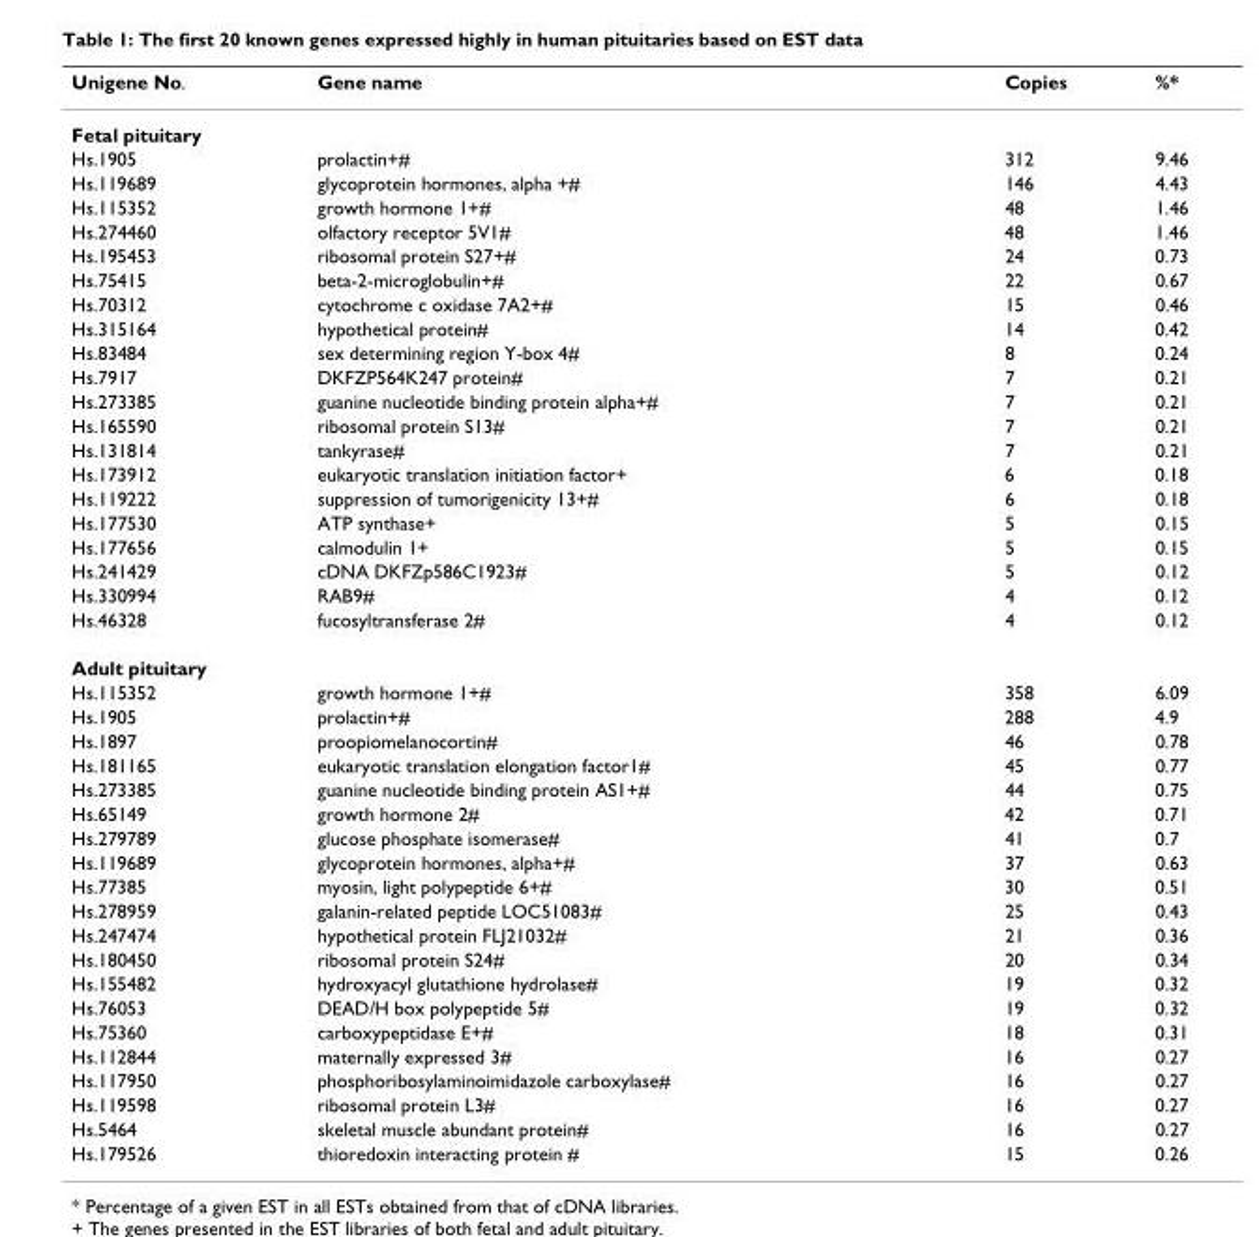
<table><thead><tr><td>Unigene No.</td><td>Gene name</td><td>Copies</td><td>%*</td></tr></thead><tbody><tr><td colspan="4">Fetal pituitary</td></tr><tr><td>Hs.1905</td><td>prolactin+#</td><td>312</td><td>9.46</td></tr><tr><td>Hs.119689</td><td>glycoprotein hormones, alpha +#</td><td>146</td><td>4.43</td></tr><tr><td>Hs.115352</td><td>growth hormone 1+#</td><td>48</td><td>1.46</td></tr><tr><td>Hs.274460</td><td>olfactory receptor 5V1#</td><td>48</td><td>1.46</td></tr><tr><td>Hs.195453</td><td>ribosomal protein S27+#</td><td>24</td><td>0.73</td></tr><tr><td>Hs.75415</td><td>beta-2-microglobulin+#</td><td>22</td><td>0.67</td></tr><tr><td>Hs.70312</td><td>cytochrome c oxidase 7A2+#</td><td>15</td><td>0.46</td></tr><tr><td>Hs.315164</td><td>hypothetical protein#</td><td>14</td><td>0.42</td></tr><tr><td>Hs.83484</td><td>sex determining region Y-box 4#</td><td>8</td><td>0.24</td></tr><tr><td>Hs.7917</td><td>DKFZP564K247 protein#</td><td>7</td><td>0.21</td></tr><tr><td>Hs.273385</td><td>guanine nucleotide binding protein alpha+#</td><td>7</td><td>0.21</td></tr><tr><td>Hs.165590</td><td>ribosomal protein S13#</td><td>7</td><td>0.21</td></tr><tr><td>Hs.131814</td><td>tankyrase#</td><td>7</td><td>0.21</td></tr><tr><td>Hs.173912</td><td>eukaryotic translation initiation factor+</td><td>6</td><td>0.18</td></tr><tr><td>Hs.119222</td><td>suppression of tumorigenicity 13+#</td><td>6</td><td>0.18</td></tr><tr><td>Hs.177530</td><td>ATP synthase+</td><td>5</td><td>0.15</td></tr><tr><td>Hs.177656</td><td>calmodulin 1+</td><td>5</td><td>0.15</td></tr><tr><td>Hs.241429</td><td>cDNA DKFZp586C1923#</td><td>5</td><td>0.12</td></tr><tr><td>Hs.330994</td><td>RAB9#</td><td>4</td><td>0.12</td></tr><tr><td>Hs.46328</td><td>fucosyltransferase 2#</td><td>4</td><td>0.12</td></tr><tr><td colspan="4">Adult pituitary</td></tr><tr><td>Hs.115352</td><td>growth hormone 1+#</td><td>358</td><td>6.09</td></tr><tr><td>Hs.1905</td><td>prolactin+#</td><td>288</td><td>4.9</td></tr><tr><td>Hs.1897</td><td>proopiomelanocortin#</td><td>46</td><td>0.78</td></tr><tr><td>Hs.181165</td><td>eukaryotic translation elongation factor1#</td><td>45</td><td>0.77</td></tr><tr><td>Hs.273385</td><td>guanine nucleotide binding protein AS1+#</td><td>44</td><td>0.75</td></tr><tr><td>Hs.65149</td><td>growth hormone 2#</td><td>42</td><td>0.71</td></tr><tr><td>Hs.279789</td><td>glucose phosphate isomerase#</td><td>41</td><td>0.7</td></tr><tr><td>Hs.119689</td><td>glycoprotein hormones, alpha+#</td><td>37</td><td>0.63</td></tr><tr><td>Hs.77385</td><td>myosin, light polypeptide 6+#</td><td>30</td><td>0.51</td></tr><tr><td>Hs.278959</td><td>galanin-related peptide LOC51083#</td><td>25</td><td>0.43</td></tr><tr><td>Hs.247474</td><td>hypothetical protein FLJ21032#</td><td>21</td><td>0.36</td></tr><tr><td>Hs.180450</td><td>ribosomal protein S24#</td><td>20</td><td>0.34</td></tr><tr><td>Hs.155482</td><td>hydroxyacyl glutathione hydrolase#</td><td>19</td><td>0.32</td></tr><tr><td>Hs.76053</td><td>DEAD/H box polypeptide 5#</td><td>19</td><td>0.32</td></tr><tr><td>Hs.75360</td><td>carboxypeptidase E+#</td><td>18</td><td>0.31</td></tr><tr><td>Hs.112844</td><td>maternally expressed 3#</td><td>16</td><td>0.27</td></tr><tr><td>Hs.117950</td><td>phosphoribosylaminoimidazole carboxylase#</td><td>16</td><td>0.27</td></tr><tr><td>Hs.119598</td><td>ribosomal protein L3#</td><td>16</td><td>0.27</td></tr><tr><td>Hs.5464</td><td>skeletal muscle abundant protein#</td><td>16</td><td>0.27</td></tr><tr><td>Hs.179526</td><td>thioredoxin interacting protein #</td><td>15</td><td>0.26</td></tr></tbody></table>